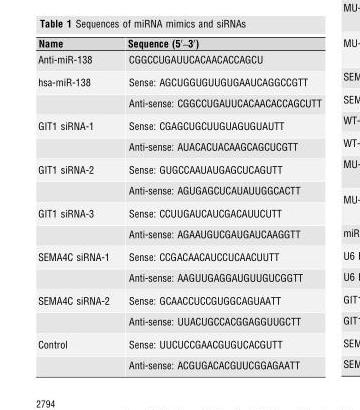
<table><thead><tr><td>Name</td><td>Sequence (5′–3′)</td></tr></thead><tbody><tr><td>Anti-miR-138</td><td>CGGCCUGAUUCACAACACCAGCU</td></tr><tr><td rowspan="2">hsa-miR-138</td><td>Sense: AGCUGGUGUUGUGAAUCAGGCCGTT</td></tr><tr><td>Anti-sense: CGGCCUGAUUCACAACACCAGCUTT</td></tr><tr><td rowspan="2">GIT1 siRNA-1</td><td>Sense: CGAGCUGCUUGUAGUGUAUTT</td></tr><tr><td>Anti-sense: AUACACUACAAGCAGCUCGTT</td></tr><tr><td rowspan="2">GIT1 siRNA-2</td><td>Sense: GUGCCAAUAUGAGCUCAGUTT</td></tr><tr><td>Anti-sense: AGUGAGCUCAUAUUGGCACTT</td></tr><tr><td rowspan="2">GIT1 siRNA-3</td><td>Sense: CCUUGAUCAUCGACAUUCUTT</td></tr><tr><td>Anti-sense: AGAAUGUCGAUGAUCAAGGTT</td></tr><tr><td rowspan="2">SEMA4C siRNA-1</td><td>Sense: CCGACAACAUCCUCAACUUTT</td></tr><tr><td>Anti-sense: AAGUUGAGGAUGUUGUCGGTT</td></tr><tr><td rowspan="2">SEMA4C siRNA-2</td><td>Sense: GCAACCUCCGUGGCAGUAATT</td></tr><tr><td>Anti-sense: UUACUGCCACGGAGGUUGCTT</td></tr><tr><td rowspan="2">Control</td><td>Sense: UUCUCCGAACGUGUCACGUTT</td></tr><tr><td>Anti-sense: ACGUGACACGUUCGGAGAATT</td></tr></tbody></table>